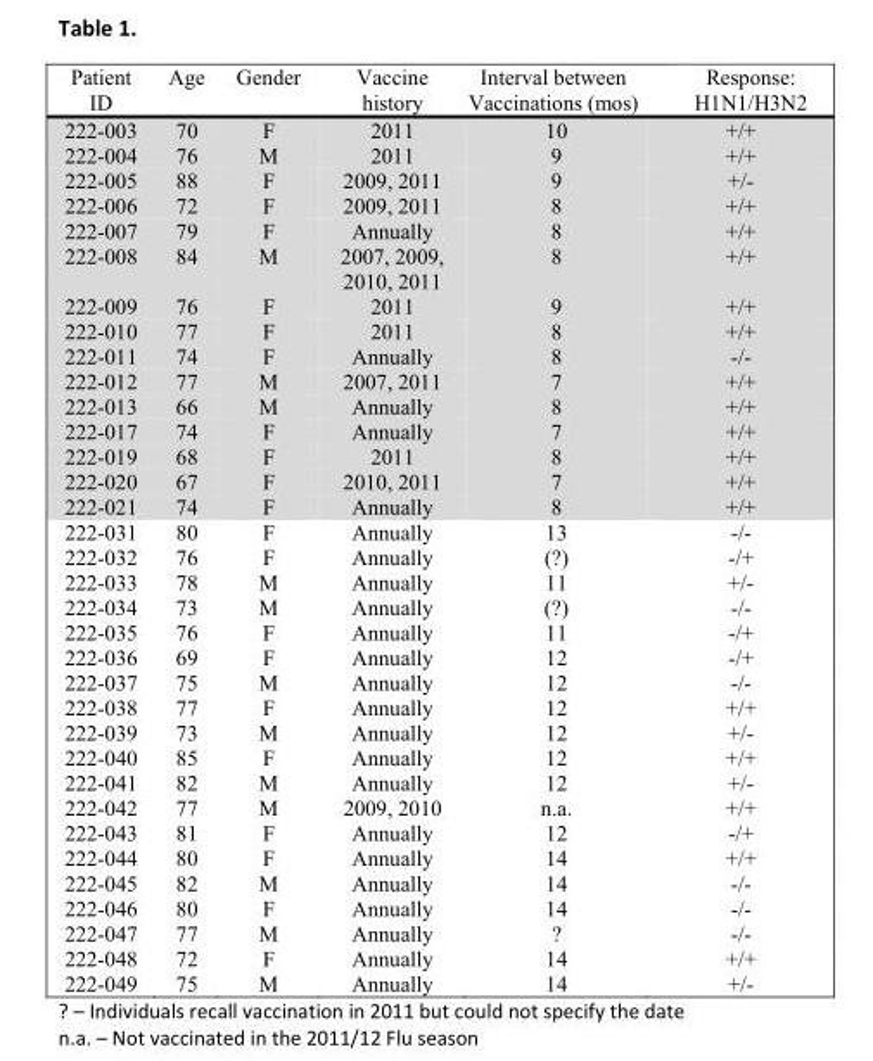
<table><thead><tr><td>Patient ID</td><td>Age</td><td>Gender</td><td>Vaccine history</td><td>Interval between Vaccinations (mos)</td><td>Response: H1N1/H3N2</td></tr></thead><tbody><tr><td>222-003</td><td>70</td><td>F</td><td>2011</td><td>10</td><td>+/+</td></tr><tr><td>222-004</td><td>76</td><td>M</td><td>2011</td><td>9</td><td>+/+</td></tr><tr><td>222-005</td><td>88</td><td>F</td><td>2009, 2011</td><td>9</td><td>+/-</td></tr><tr><td>222-006</td><td>72</td><td>F</td><td>2009, 2011</td><td>8</td><td>+/+</td></tr><tr><td>222-007</td><td>79</td><td>F</td><td>Annually</td><td>8</td><td>+/+</td></tr><tr><td>222-008</td><td>84</td><td>M</td><td>2007, 2009, 2010, 2011</td><td>8</td><td>+/+</td></tr><tr><td>222-009</td><td>76</td><td>F</td><td>2011</td><td>9</td><td>+/+</td></tr><tr><td>222-010</td><td>77</td><td>F</td><td>2011</td><td>8</td><td>+/+</td></tr><tr><td>222-011</td><td>74</td><td>F</td><td>Annually</td><td>8</td><td>-/-</td></tr><tr><td>222-012</td><td>77</td><td>M</td><td>2007, 2011</td><td>7</td><td>+/+</td></tr><tr><td>222-013</td><td>66</td><td>M</td><td>Annually</td><td>8</td><td>+/+</td></tr><tr><td>222-017</td><td>74</td><td>F</td><td>Annually</td><td>7</td><td>+/+</td></tr><tr><td>222-019</td><td>68</td><td>F</td><td>2011</td><td>8</td><td>+/+</td></tr><tr><td>222-020</td><td>67</td><td>F</td><td>2010, 2011</td><td>7</td><td>+/+</td></tr><tr><td>222-021</td><td>74</td><td>F</td><td>Annually</td><td>8</td><td>+/+</td></tr><tr><td>222-031</td><td>80</td><td>F</td><td>Annually</td><td>13</td><td>-/-</td></tr><tr><td>222-032</td><td>76</td><td>F</td><td>Annually</td><td>(?)</td><td>-/+</td></tr><tr><td>222-033</td><td>78</td><td>M</td><td>Annually</td><td>11</td><td>+/-</td></tr><tr><td>222-034</td><td>73</td><td>M</td><td>Annually</td><td>(?)</td><td>-/-</td></tr><tr><td>222-035</td><td>76</td><td>F</td><td>Annually</td><td>11</td><td>-/+</td></tr><tr><td>222-036</td><td>69</td><td>F</td><td>Annually</td><td>12</td><td>-/+</td></tr><tr><td>222-037</td><td>75</td><td>M</td><td>Annually</td><td>12</td><td>-/-</td></tr><tr><td>222-038</td><td>77</td><td>F</td><td>Annually</td><td>12</td><td>+/+</td></tr><tr><td>222-039</td><td>73</td><td>M</td><td>Annually</td><td>12</td><td>+/-</td></tr><tr><td>222-040</td><td>85</td><td>F</td><td>Annually</td><td>12</td><td>+/+</td></tr><tr><td>222-041</td><td>82</td><td>M</td><td>Annually</td><td>12</td><td>+/-</td></tr><tr><td>222-042</td><td>77</td><td>M</td><td>2009, 2010</td><td>n.a.</td><td>+/+</td></tr><tr><td>222-043</td><td>81</td><td>F</td><td>Annually</td><td>12</td><td>-/+</td></tr><tr><td>222-044</td><td>80</td><td>F</td><td>Annually</td><td>14</td><td>+/+</td></tr><tr><td>222-045</td><td>82</td><td>M</td><td>Annually</td><td>14</td><td>-/-</td></tr><tr><td>222-046</td><td>80</td><td>F</td><td>Annually</td><td>14</td><td>-/-</td></tr><tr><td>222-047</td><td>77</td><td>M</td><td>Annually</td><td>?</td><td>-/-</td></tr><tr><td>222-048</td><td>72</td><td>F</td><td>Annually</td><td>14</td><td>+/+</td></tr><tr><td>222-049</td><td>75</td><td>M</td><td>Annually</td><td>14</td><td>+/-</td></tr></tbody></table>